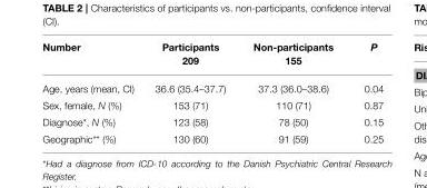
<table><thead><tr><td>Number</td><td>Participants 209</td><td>Non-participants 155</td><td>P</td></tr></thead><tbody><tr><td>Age, years (mean, CI)</td><td>36.6 (35.4–37.7)</td><td>37.3 (36.0–38.6)</td><td>0.04</td></tr><tr><td>Sex, female, N (%)</td><td>153 (71)</td><td>110 (71)</td><td>0.87</td></tr><tr><td>Diagnose*, N (%)</td><td>123 (58)</td><td>78 (50)</td><td>0.15</td></tr><tr><td>Geographic** (%)</td><td>130 (60)</td><td>91 (59)</td><td>0.25</td></tr></tbody></table>